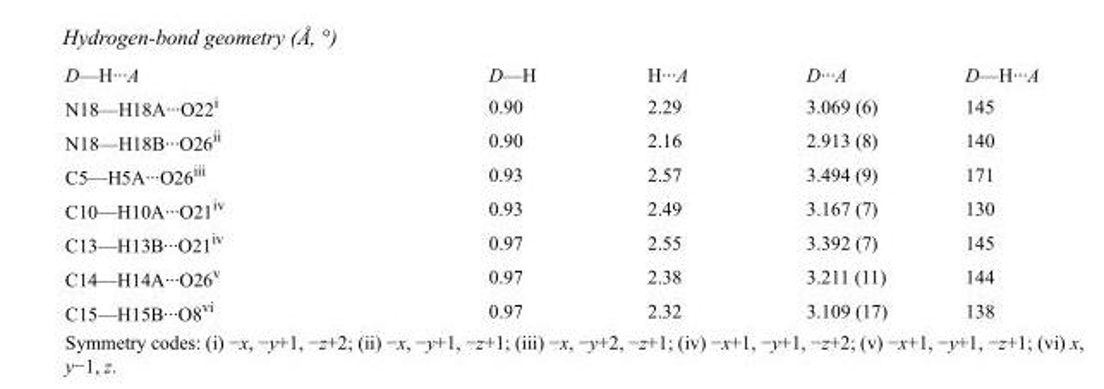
<table><tbody><tr><td>D—H···A</td><td>D—H</td><td>H···A</td><td>D···A</td><td>D—H···A</td></tr><tr><td>N18—H18A···O22<sup>i</sup></td><td>0.90</td><td>2.29</td><td>3.069 (6)</td><td>145</td></tr><tr><td>N18—H18B···O26<sup>ii</sup></td><td>0.90</td><td>2.16</td><td>2.913 (8)</td><td>140</td></tr><tr><td>C5—H5A···O26<sup>iii</sup></td><td>0.93</td><td>2.57</td><td>3.494 (9)</td><td>171</td></tr><tr><td>C10—H10A···O21<sup>iv</sup></td><td>0.93</td><td>2.49</td><td>3.167 (7)</td><td>130</td></tr><tr><td>C13—H13B···O21<sup>iv</sup></td><td>0.97</td><td>2.55</td><td>3.392 (7)</td><td>145</td></tr><tr><td>C14—H14A···O26<sup>v</sup></td><td>0.97</td><td>2.38</td><td>3.211 (11)</td><td>144</td></tr><tr><td>C15—H15B···O8<sup>vi</sup></td><td>0.97</td><td>2.32</td><td>3.109 (17)</td><td>138</td></tr></tbody></table>